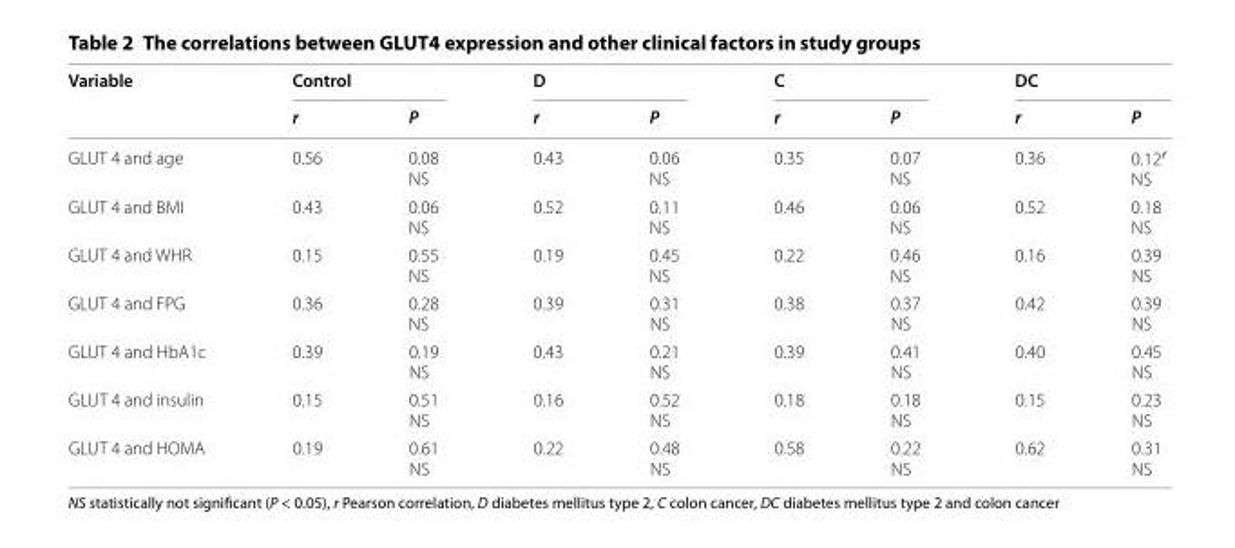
<table><thead><tr><td rowspan="2">Variable</td><td colspan="2">Control</td><td colspan="2">D</td><td colspan="2">C</td><td colspan="2">DC</td></tr><tr><td>r</td><td>P</td><td>r</td><td>P</td><td>r</td><td>P</td><td>r</td><td>P</td></tr></thead><tbody><tr><td>GLUT 4 and age</td><td>0.56</td><td>0.08 NS</td><td>0.43</td><td>0.06 NS</td><td>0.35</td><td>0.07 NS</td><td>0.36</td><td>0.12′ NS</td></tr><tr><td>GLUT 4 and BMI</td><td>0.43</td><td>0.06 NS</td><td>0.52</td><td>0.11 NS</td><td>0.46</td><td>0.06 NS</td><td>0.52</td><td>0.18 NS</td></tr><tr><td>GLUT 4 and WHR</td><td>0.15</td><td>0.55 NS</td><td>0.19</td><td>0.45 NS</td><td>0.22</td><td>0.46 NS</td><td>0.16</td><td>0.39 NS</td></tr><tr><td>GLUT 4 and FPG</td><td>0.36</td><td>0.28 NS</td><td>0.39</td><td>0.31 NS</td><td>0.38</td><td>0.37 NS</td><td>0.42</td><td>0.39 NS</td></tr><tr><td>GLUT 4 and HbA1c</td><td>0.39</td><td>0.19 NS</td><td>0.43</td><td>0.21 NS</td><td>0.39</td><td>0.41 NS</td><td>0.40</td><td>0.45 NS</td></tr><tr><td>GLUT 4 and insulin</td><td>0.15</td><td>0.51 NS</td><td>0.16</td><td>0.52 NS</td><td>0.18</td><td>0.18 NS</td><td>0.15</td><td>0.23 NS</td></tr><tr><td>GLUT 4 and HOMA</td><td>0.19</td><td>0.61 NS</td><td>0.22</td><td>0.48 NS</td><td>0.58</td><td>0.22 NS</td><td>0.62</td><td>0.31 NS</td></tr></tbody></table>